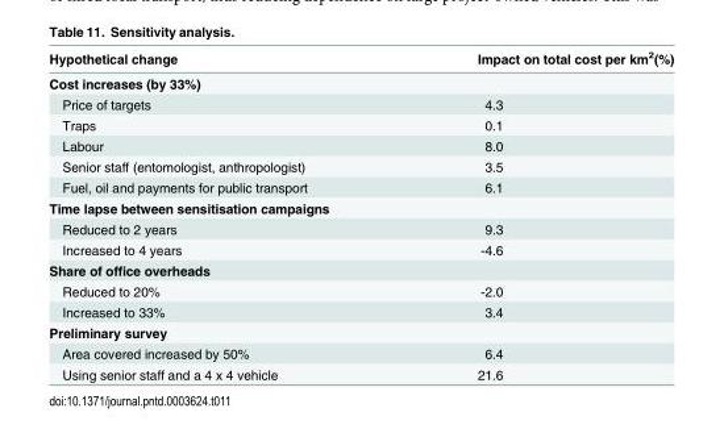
<table><thead><tr><td>Hypothetical change</td><td>Impact on total cost per km<sup>2</sup>(%)</td></tr></thead><tbody><tr><td colspan="2">Cost increases (by 33%)</td></tr><tr><td>Price of targets</td><td>4.3</td></tr><tr><td>Traps</td><td>0.1</td></tr><tr><td>Labour</td><td>8.0</td></tr><tr><td>Senior staff (entomologist, anthropologist)</td><td>3.5</td></tr><tr><td>Fuel, oil and payments for public transport</td><td>6.1</td></tr><tr><td colspan="2">Time lapse between sensitisation campaigns</td></tr><tr><td>Reduced to 2 years</td><td>9.3</td></tr><tr><td>Increased to 4 years</td><td>-4.6</td></tr><tr><td colspan="2">Share of office overheads</td></tr><tr><td>Reduced to 20%</td><td>-2.0</td></tr><tr><td>Increased to 33%</td><td>3.4</td></tr><tr><td colspan="2">Preliminary survey</td></tr><tr><td>Area covered increased by 50%</td><td>6.4</td></tr><tr><td>Using senior staff and a 4 x 4 vehicle</td><td>21.6</td></tr></tbody></table>